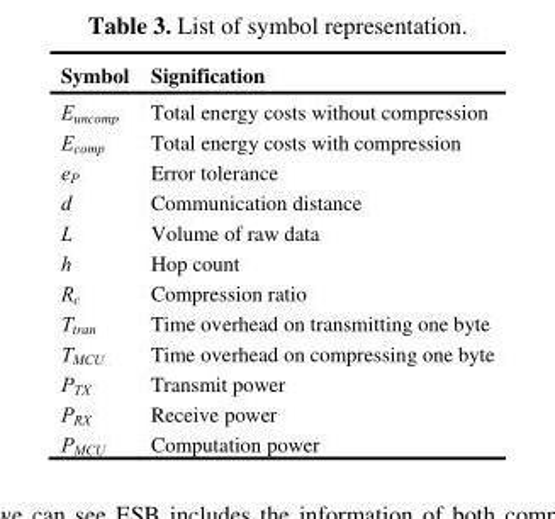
<table><thead><tr><td>Symbol</td><td>Signification</td></tr></thead><tbody><tr><td>E<sub>uncomp</sub></td><td>Total energy costs without compression</td></tr><tr><td>E<sub>comp</sub></td><td>Total energy costs with compression</td></tr><tr><td>e<sub>P</sub></td><td>Error tolerance</td></tr><tr><td>d</td><td>Communication distance</td></tr><tr><td>L</td><td>Volume of raw data</td></tr><tr><td>h</td><td>Hop count</td></tr><tr><td>R<sub>c</sub></td><td>Compression ratio</td></tr><tr><td>T<sub>tran</sub></td><td>Time overhead on transmitting one byte</td></tr><tr><td>T<sub>MCU</sub></td><td>Time overhead on compressing one byte</td></tr><tr><td>P<sub>TX</sub></td><td>Transmit power</td></tr><tr><td>P<sub>RX</sub></td><td>Receive power</td></tr><tr><td>P<sub>MCU</sub></td><td>Computation power</td></tr></tbody></table>